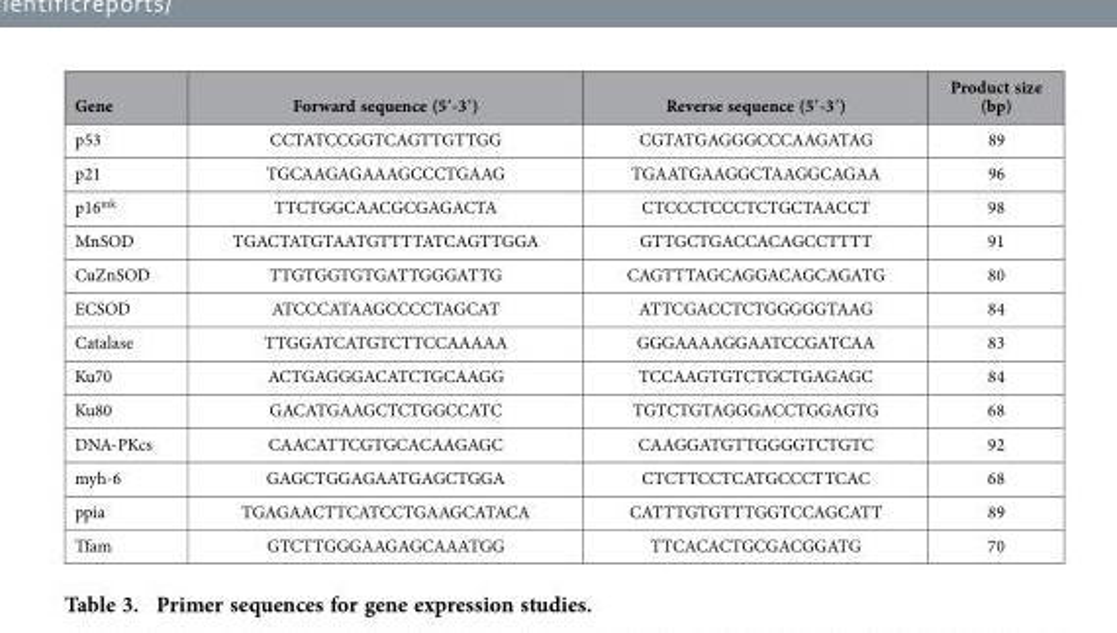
<table><thead><tr><td>Gene</td><td>Forward sequence (5′-3′)</td><td>Reverse sequence (5′-3′)</td><td>Product size (bp)</td></tr></thead><tbody><tr><td>p53</td><td>CCTATCCGGTCAGTTGTTGG</td><td>CGTATGAGGGCCCAAGATAG</td><td>89</td></tr><tr><td>p21</td><td>TGCAAGAGAAAGCCCTGAAG</td><td>TGAATGAAGGCTAAGGCAGAA</td><td>96</td></tr><tr><td>p16<sup>ink</sup></td><td>TTCTGGCAACGCGAGACTA</td><td>CTCCCTCCCTCTGCTAACCT</td><td>98</td></tr><tr><td>MnSOD</td><td>TGACTATGTAATGTTTTATCAGTTGGA</td><td>GTTGCTGACCACAGCCTTTT</td><td>91</td></tr><tr><td>CuZnSOD</td><td>TTGTGGTGTGATTGGGATTG</td><td>CAGTTTAGCAGGACAGCAGATG</td><td>80</td></tr><tr><td>ECSOD</td><td>ATCCCATAAGCCCCTAGCAT</td><td>ATTCGACCTCTGGGGGTAAG</td><td>84</td></tr><tr><td>Catalase</td><td>TTGGATCATGTCTTCCAAAAA</td><td>GGGAAAAGGAATCCGATCAA</td><td>83</td></tr><tr><td>Ku70</td><td>ACTGAGGGACATCTGCAAGG</td><td>TCCAAGTGTCTGCTGAGAGC</td><td>84</td></tr><tr><td>Ku80</td><td>GACATGAAGCTCTGGCCATC</td><td>TGTCTGTAGGGACCTGGAGTG</td><td>68</td></tr><tr><td>DNA-PKcs</td><td>CAACATTCGTGCACAAGAGC</td><td>CAAGGATGTTGGGGTCTGTC</td><td>92</td></tr><tr><td>myh-6</td><td>GAGCTGGAGAATGAGCTGGA</td><td>CTCTTCCTCATGCCCTTCAC</td><td>68</td></tr><tr><td>ppia</td><td>TGAGAACTTCATCCTGAAGCATACA</td><td>CATTTGTGTTTGGTCCAGCATT</td><td>89</td></tr><tr><td>Tfam</td><td>GTCTTGGGAAGAGCAAATGG</td><td>TTCACACTGCGACGGATG</td><td>70</td></tr></tbody></table>